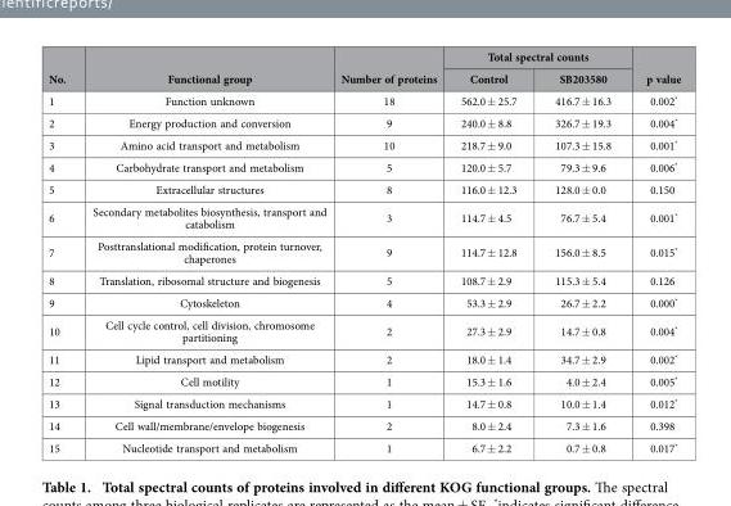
<table><thead><tr><td rowspan="2">No.</td><td rowspan="2">Functional group</td><td rowspan="2">Number of proteins</td><td colspan="2">Total spectral counts</td><td rowspan="2">p value</td></tr><tr><td>Control</td><td>SB203580</td></tr></thead><tbody><tr><td>1</td><td>Function unknown</td><td>18</td><td>562.0 ± 25.7</td><td>416.7 ± 16.3</td><td>0.002*</td></tr><tr><td>2</td><td>Energy production and conversion</td><td>9</td><td>240.0 ± 8.8</td><td>326.7 ± 19.3</td><td>0.004*</td></tr><tr><td>3</td><td>Amino acid transport and metabolism</td><td>10</td><td>218.7 ± 9.0</td><td>107.3 ± 15.8</td><td>0.001*</td></tr><tr><td>4</td><td>Carbohydrate transport and metabolism</td><td>5</td><td>120.0 ± 5.7</td><td>79.3 ± 9.6</td><td>0.006*</td></tr><tr><td>5</td><td>Extracellular structures</td><td>8</td><td>116.0 ± 12.3</td><td>128.0 ± 0.0</td><td>0.150</td></tr><tr><td>6</td><td>Secondary metabolites biosynthesis, transport and catabolism</td><td>3</td><td>114.7 ± 4.5</td><td>76.7 ± 5.4</td><td>0.001*</td></tr><tr><td>7</td><td>Posttranslational modification, protein turnover, chaperones</td><td>9</td><td>114.7 ± 12.8</td><td>156.0 ± 8.5</td><td>0.015*</td></tr><tr><td>8</td><td>Translation, ribosomal structure and biogenesis</td><td>5</td><td>108.7 ± 2.9</td><td>115.3 ± 5.4</td><td>0.126</td></tr><tr><td>9</td><td>Cytoskeleton</td><td>4</td><td>53.3 ± 2.9</td><td>26.7 ± 2.2</td><td>0.000*</td></tr><tr><td>10</td><td>Cell cycle control, cell division, chromosome partitioning</td><td>2</td><td>27.3 ± 2.9</td><td>14.7 ± 0.8</td><td>0.004*</td></tr><tr><td>11</td><td>Lipid transport and metabolism</td><td>2</td><td>18.0 ± 1.4</td><td>34.7 ± 2.9</td><td>0.002*</td></tr><tr><td>12</td><td>Cell motility</td><td>1</td><td>15.3 ± 1.6</td><td>4.0 ± 2.4</td><td>0.005*</td></tr><tr><td>13</td><td>Signal transduction mechanisms</td><td>1</td><td>14.7 ± 0.8</td><td>10.0 ± 1.4</td><td>0.012*</td></tr><tr><td>14</td><td>Cell wall/membrane/envelope biogenesis</td><td>2</td><td>8.0 ± 2.4</td><td>7.3 ± 1.6</td><td>0.398</td></tr><tr><td>15</td><td>Nucleotide transport and metabolism</td><td>1</td><td>6.7 ± 2.2</td><td>0.7 ± 0.8</td><td>0.017*</td></tr></tbody></table>